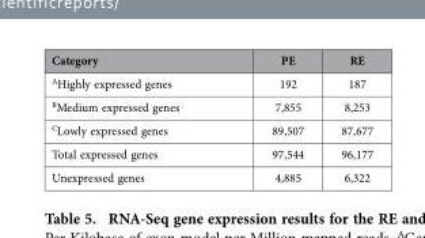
<table><thead><tr><td>Category</td><td>PE</td><td>RE</td></tr></thead><tbody><tr><td>AHighly expressed genes</td><td>192</td><td>187</td></tr><tr><td>BMedium expressed genes</td><td>7,855</td><td>8,253</td></tr><tr><td>CLowly expressed genes</td><td>89,507</td><td>87,677</td></tr><tr><td>Total expressed genes</td><td>97,544</td><td>96,177</td></tr><tr><td>Unexpressed genes</td><td>4,885</td><td>6,322</td></tr></tbody></table>